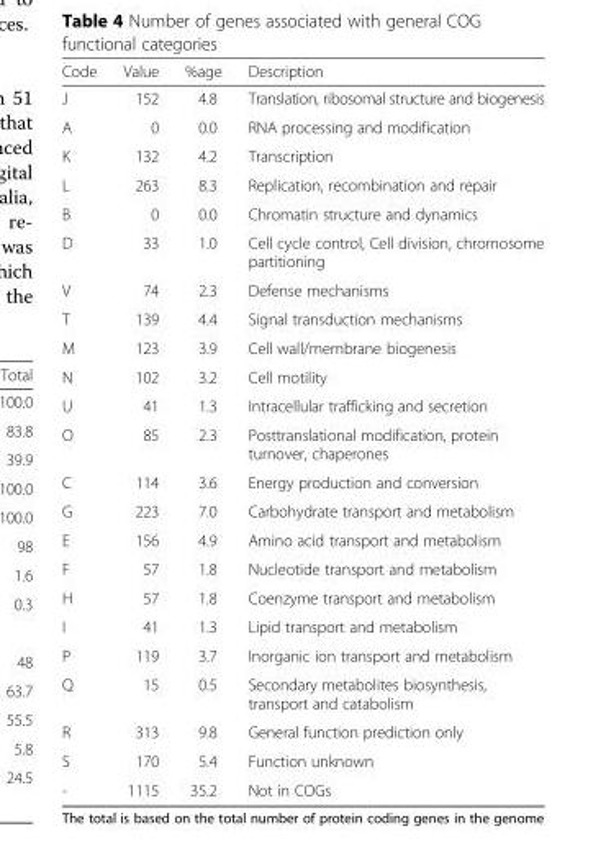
<table><thead><tr><td>Code</td><td>Value</td><td>%age</td><td>Description</td></tr></thead><tbody><tr><td>J</td><td>152</td><td>4.8</td><td>Translation, ribosomal structure and biogenesis</td></tr><tr><td>A</td><td>0</td><td>0.0</td><td>RNA processing and modification</td></tr><tr><td>K</td><td>132</td><td>4.2</td><td>Transcription</td></tr><tr><td>L</td><td>263</td><td>8.3</td><td>Replication, recombination and repair</td></tr><tr><td>B</td><td>0</td><td>0.0</td><td>Chromatin structure and dynamics</td></tr><tr><td>D</td><td>33</td><td>1.0</td><td>Cell cycle control, Cell division, chromosome partitioning</td></tr><tr><td>V</td><td>74</td><td>2.3</td><td>Defense mechanisms</td></tr><tr><td>T</td><td>139</td><td>4.4</td><td>Signal transduction mechanisms</td></tr><tr><td>M</td><td>123</td><td>3.9</td><td>Cell wall/membrane biogenesis</td></tr><tr><td>N</td><td>102</td><td>3.2</td><td>Cell motility</td></tr><tr><td>U</td><td>41</td><td>1.3</td><td>Intracellular trafficking and secretion</td></tr><tr><td>O</td><td>85</td><td>2.3</td><td>Posttranslational modification, protein turnover, chaperones</td></tr><tr><td>C</td><td>114</td><td>3.6</td><td>Energy production and conversion</td></tr><tr><td>G</td><td>223</td><td>7.0</td><td>Carbohydrate transport and metabolism</td></tr><tr><td>E</td><td>156</td><td>4.9</td><td>Amino acid transport and metabolism</td></tr><tr><td>F</td><td>57</td><td>1.8</td><td>Nucleotide transport and metabolism</td></tr><tr><td>H</td><td>57</td><td>1.8</td><td>Coenzyme transport and metabolism</td></tr><tr><td>I</td><td>41</td><td>1.3</td><td>Lipid transport and metabolism</td></tr><tr><td>P</td><td>119</td><td>3.7</td><td>Inorganic ion transport and metabolism</td></tr><tr><td>Q</td><td>15</td><td>0.5</td><td>Secondary metabolites biosynthesis, transport and catabolism</td></tr><tr><td>R</td><td>313</td><td>9.8</td><td>General function prediction only</td></tr><tr><td>S</td><td>170</td><td>5.4</td><td>Function unknown</td></tr><tr><td>-</td><td>1115</td><td>35.2</td><td>Not in COGs</td></tr></tbody></table>